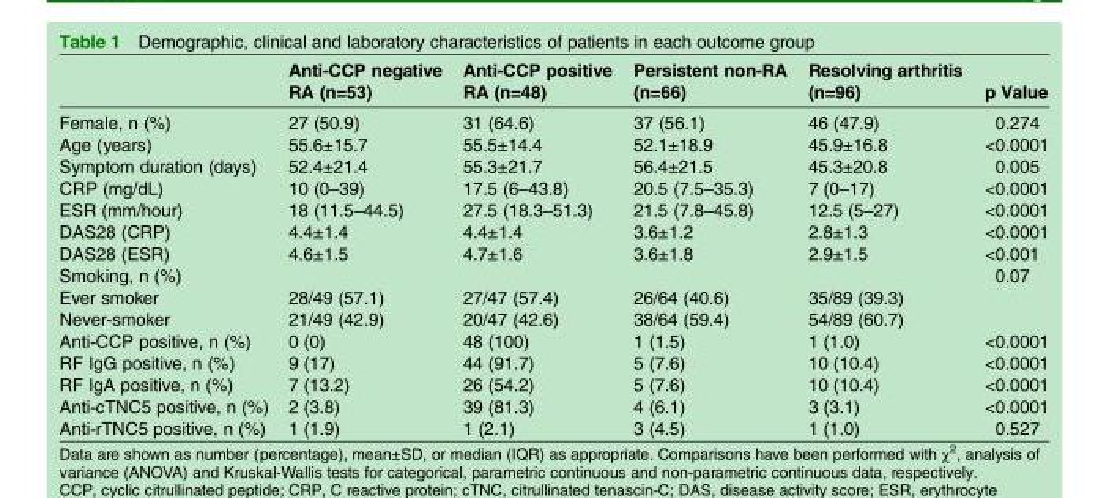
<table><thead><tr><td></td><td>Anti-CCP negative RA (n=53)</td><td>Anti-CCP positive RA (n=48)</td><td>Persistent non-RA (n=66)</td><td>Resolving arthritis (n=96)</td><td>p Value</td></tr></thead><tbody><tr><td>Female, n (%)</td><td>27 (50.9)</td><td>31 (64.6)</td><td>37 (56.1)</td><td>46 (47.9)</td><td>0.274</td></tr><tr><td>Age (years)</td><td>55.6±15.7</td><td>55.5±14.4</td><td>52.1±18.9</td><td>45.9±16.8</td><td>&lt;0.0001</td></tr><tr><td>Symptom duration (days)</td><td>52.4±21.4</td><td>55.3±21.7</td><td>56.4±21.5</td><td>45.3±20.8</td><td>0.005</td></tr><tr><td>CRP (mg/dL)</td><td>10 (0–39)</td><td>17.5 (6–43.8)</td><td>20.5 (7.5–35.3)</td><td>7 (0–17)</td><td>&lt;0.0001</td></tr><tr><td>ESR (mm/hour)</td><td>18 (11.5–44.5)</td><td>27.5 (18.3–51.3)</td><td>21.5 (7.8–45.8)</td><td>12.5 (5–27)</td><td>&lt;0.0001</td></tr><tr><td>DAS28 (CRP)</td><td>4.4±1.4</td><td>4.4±1.4</td><td>3.6±1.2</td><td>2.8±1.3</td><td>&lt;0.0001</td></tr><tr><td>DAS28 (ESR)</td><td>4.6±1.5</td><td>4.7±1.6</td><td>3.6±1.8</td><td>2.9±1.5</td><td>&lt;0.001</td></tr><tr><td>Smoking, n (%)</td><td></td><td></td><td></td><td></td><td>0.07</td></tr><tr><td>Ever smoker</td><td>28/49 (57.1)</td><td>27/47 (57.4)</td><td>26/64 (40.6)</td><td>35/89 (39.3)</td><td></td></tr><tr><td>Never-smoker</td><td>21/49 (42.9)</td><td>20/47 (42.6)</td><td>38/64 (59.4)</td><td>54/89 (60.7)</td><td></td></tr><tr><td>Anti-CCP positive, n (%)</td><td>0 (0)</td><td>48 (100)</td><td>1 (1.5)</td><td>1 (1.0)</td><td>&lt;0.0001</td></tr><tr><td>RF IgG positive, n (%)</td><td>9 (17)</td><td>44 (91.7)</td><td>5 (7.6)</td><td>10 (10.4)</td><td>&lt;0.0001</td></tr><tr><td>RF IgA positive, n (%)</td><td>7 (13.2)</td><td>26 (54.2)</td><td>5 (7.6)</td><td>10 (10.4)</td><td>&lt;0.0001</td></tr><tr><td>Anti-cTNC5 positive, n (%)</td><td>2 (3.8)</td><td>39 (81.3)</td><td>4 (6.1)</td><td>3 (3.1)</td><td>&lt;0.0001</td></tr><tr><td>Anti-rTNC5 positive, n (%)</td><td>1 (1.9)</td><td>1 (2.1)</td><td>3 (4.5)</td><td>1 (1.0)</td><td>0.527</td></tr></tbody></table>